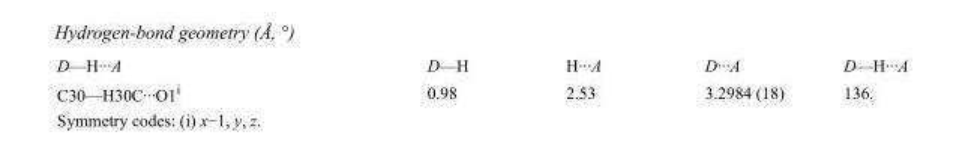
<table><tbody><tr><td>D—H···A</td><td>D—H</td><td>H···A</td><td>D···A</td><td>D—H···A</td></tr><tr><td>C30—H30C···O1<sup>i</sup></td><td>0.98</td><td>2.53</td><td>3.2984 (18)</td><td>136.</td></tr></tbody></table>